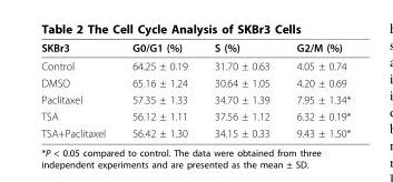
<table><thead><tr><td>SKBr3</td><td>G0/G1 (%)</td><td>S (%)</td><td>G2/M (%)</td></tr></thead><tbody><tr><td>Control</td><td>64.25 ± 0.19</td><td>31.70 ± 0.63</td><td>4.05 ± 0.74</td></tr><tr><td>DMSO</td><td>65.16 ± 1.24</td><td>30.64 ± 1.05</td><td>4.20 ± 0.69</td></tr><tr><td>Paclitaxel</td><td>57.35 ± 1.33</td><td>34.70 ± 1.39</td><td>7.95 ± 1.34*</td></tr><tr><td>TSA</td><td>56.12 ± 1.11</td><td>37.56 ± 1.12</td><td>6.32 ± 0.19*</td></tr><tr><td>TSA+Paclitaxel</td><td>56.42 ± 1.30</td><td>34.15 ± 0.33</td><td>9.43 ± 1.50*</td></tr></tbody></table>